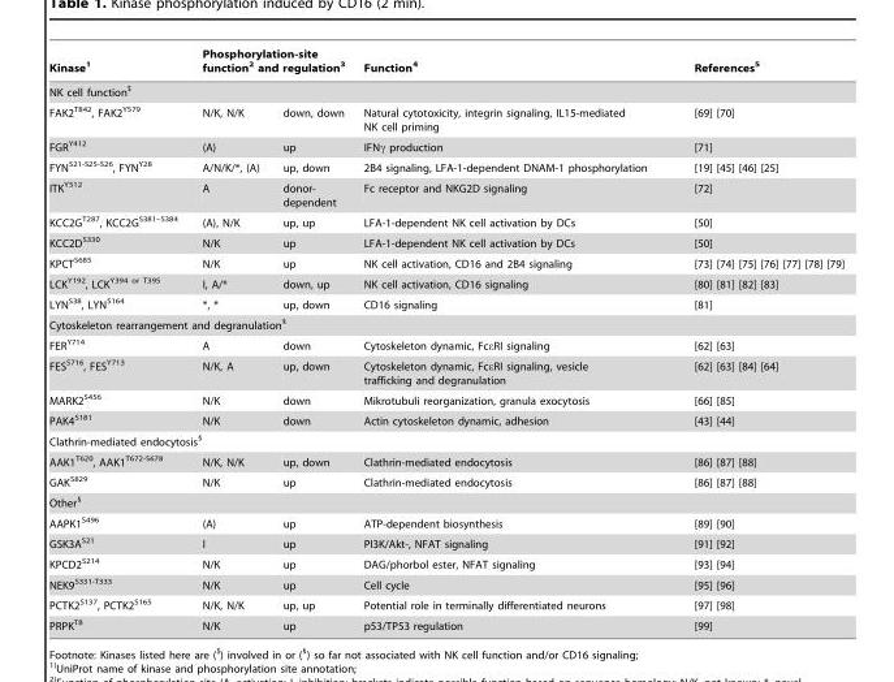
<table><thead><tr><td>Kinase<sup>1</sup></td><td colspan="2">Phosphorylation-site function<sup>2</sup> and regulation<sup>3</sup></td><td>Function<sup>4</sup></td><td>References<sup>5</sup></td></tr><tr><td colspan="5">NK cell function<sup>$</sup></td></tr><tr><td>FAK2<sup>T842</sup>, FAK2<sup>Y579</sup></td><td>N/K, N/K</td><td>down, down</td><td>Natural cytotoxicity, integrin signaling, IL15-mediated NK cell priming</td><td>[69] [70]</td></tr></thead><tbody><tr><td>FGR<sup>Y412</sup></td><td>(A)</td><td>up</td><td>IFNγ production</td><td>[71]</td></tr><tr><td>FYN<sup>S21-S25-S26</sup>, FYN<sup>Y28</sup></td><td>A/N/K/*, (A)</td><td>up, down</td><td>2B4 signaling, LFA-1-dependent DNAM-1 phosphorylation</td><td>[19] [45] [46] [25]</td></tr><tr><td>ITK<sup>Y512</sup></td><td>A</td><td>donor- dependent</td><td>Fc receptor and NKG2D signaling</td><td>[72]</td></tr><tr><td>KCC2G<sup>T287</sup>, KCC2G<sup>S381–S384</sup></td><td>(A), N/K</td><td>up, up</td><td>LFA-1-dependent NK cell activation by DCs</td><td>[50]</td></tr><tr><td>KCC2D<sup>S330</sup></td><td>N/K</td><td>up</td><td>LFA-1-dependent NK cell activation by DCs</td><td>[50]</td></tr><tr><td>KPCT<sup>S685</sup></td><td>N/K</td><td>up</td><td>NK cell activation, CD16 and 2B4 signaling</td><td>[73] [74] [75] [76] [77] [78] [79]</td></tr><tr><td>LCK<sup>Y192</sup>, LCK<sup>Y394 or T395</sup></td><td>I, A/*</td><td>down, up</td><td>NK cell activation, CD16 signaling</td><td>[80] [81] [82] [83]</td></tr><tr><td>LYN<sup>S38</sup>, LYN<sup>S164</sup></td><td>*, *</td><td>up, down</td><td>CD16 signaling</td><td>[81]</td></tr><tr><td colspan="5">Cytoskeleton rearrangement and degranulation<sup>§</sup></td></tr><tr><td>FER<sup>Y714</sup></td><td>A</td><td>down</td><td>Cytoskeleton dynamic, FcεRI signaling</td><td>[62] [63]</td></tr><tr><td>FES<sup>S716</sup>, FES<sup>Y713</sup></td><td>N/K, A</td><td>up, down</td><td>Cytoskeleton dynamic, FcεRI signaling, vesicle trafficking and degranulation</td><td>[62] [63] [84] [64]</td></tr><tr><td>MARK2<sup>S456</sup></td><td>N/K</td><td>down</td><td>Mikrotubuli reorganization, granula exocytosis</td><td>[66] [85]</td></tr><tr><td>PAK4<sup>S181</sup></td><td>N/K</td><td>down</td><td>Actin cytoskeleton dynamic, adhesion</td><td>[43] [44]</td></tr><tr><td colspan="5">Clathrin-mediated endocytosis<sup>§</sup></td></tr><tr><td>AAK1<sup>T620</sup>, AAK1<sup>T672-S678</sup></td><td>N/K, N/K</td><td>up, down</td><td>Clathrin-mediated endocytosis</td><td>[86] [87] [88]</td></tr><tr><td>GAK<sup>S829</sup></td><td>N/K</td><td>up</td><td>Clathrin-mediated endocytosis</td><td>[86] [87] [88]</td></tr><tr><td colspan="5">Other<sup>§</sup></td></tr><tr><td>AAPK1<sup>S496</sup></td><td>(A)</td><td>up</td><td>ATP-dependent biosynthesis</td><td>[89] [90]</td></tr><tr><td>GSK3A<sup>S21</sup></td><td>I</td><td>up</td><td>PI3K/Akt-, NFAT signaling</td><td>[91] [92]</td></tr><tr><td>KPCD2<sup>S214</sup></td><td>N/K</td><td>up</td><td>DAG/phorbol ester, NFAT signaling</td><td>[93] [94]</td></tr><tr><td>NEK9<sup>S331-T333</sup></td><td>N/K</td><td>up</td><td>Cell cycle</td><td>[95] [96]</td></tr><tr><td>PCTK2<sup>S137</sup>, PCTK2<sup>S165</sup></td><td>N/K, N/K</td><td>up, up</td><td>Potential role in terminally differentiated neurons</td><td>[97] [98]</td></tr><tr><td>PRPK<sup>T8</sup></td><td>N/K</td><td>up</td><td>p53/TP53 regulation</td><td>[99]</td></tr></tbody></table>